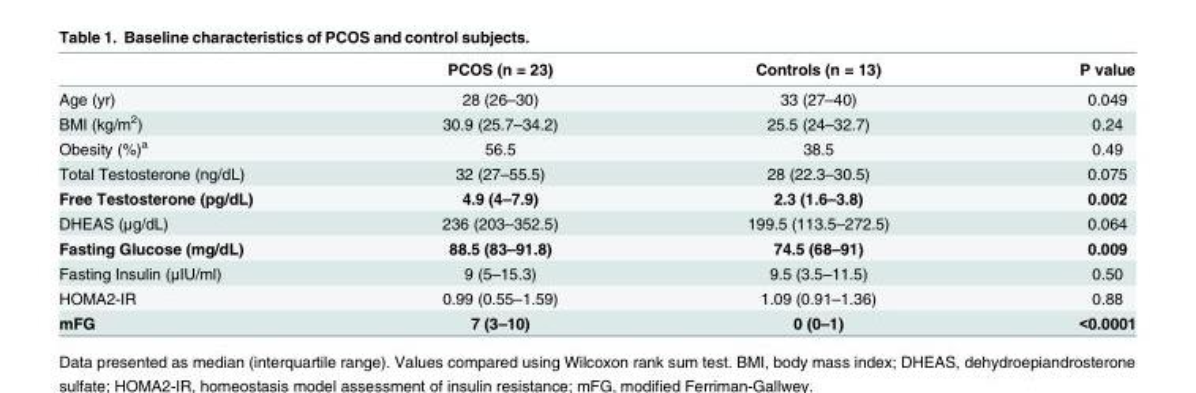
<table><thead><tr><td></td><td>PCOS (n = 23)</td><td>Controls (n = 13)</td><td>P value</td></tr></thead><tbody><tr><td>Age (yr)</td><td>28 (26–30)</td><td>33 (27–40)</td><td>0.049</td></tr><tr><td>BMI (kg/m<sup>2</sup>)</td><td>30.9 (25.7–34.2)</td><td>25.5 (24–32.7)</td><td>0.24</td></tr><tr><td>Obesity (%)<sup>a</sup></td><td>56.5</td><td>38.5</td><td>0.49</td></tr><tr><td>Total Testosterone (ng/dL)</td><td>32 (27–55.5)</td><td>28 (22.3–30.5)</td><td>0.075</td></tr><tr><td>Free Testosterone (pg/dL)</td><td>4.9 (4–7.9)</td><td>2.3 (1.6–3.8)</td><td>0.002</td></tr><tr><td>DHEAS (μg/dL)</td><td>236 (203–352.5)</td><td>199.5 (113.5–272.5)</td><td>0.064</td></tr><tr><td>Fasting Glucose (mg/dL)</td><td>88.5 (83–91.8)</td><td>74.5 (68–91)</td><td>0.009</td></tr><tr><td>Fasting Insulin (μIU/ml)</td><td>9 (5–15.3)</td><td>9.5 (3.5–11.5)</td><td>0.50</td></tr><tr><td>HOMA2-IR</td><td>0.99 (0.55–1.59)</td><td>1.09 (0.91–1.36)</td><td>0.88</td></tr><tr><td>mFG</td><td>7 (3–10)</td><td>0 (0–1)</td><td>&lt;0.0001</td></tr></tbody></table>